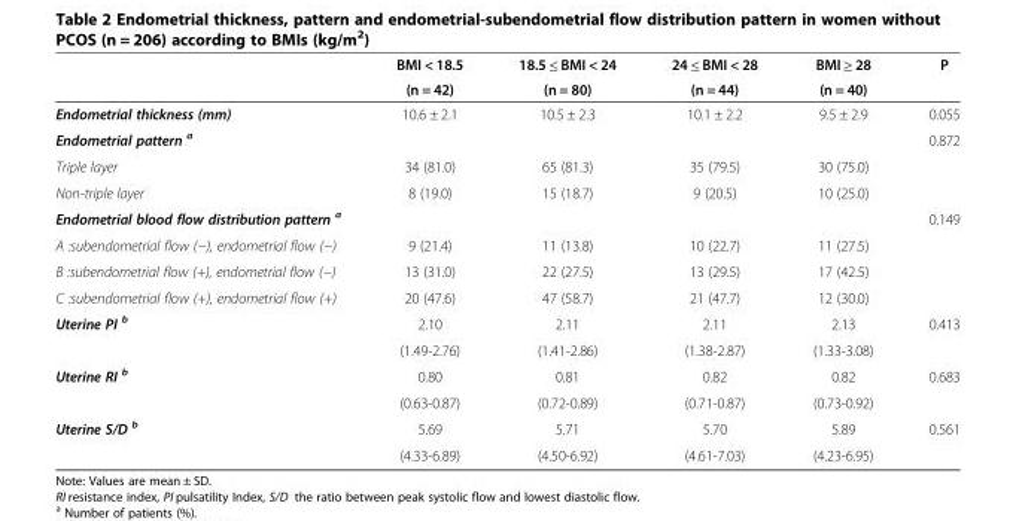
<table><thead><tr><td rowspan="2"></td><td rowspan="2">BMI &lt; 18.5 (n = 42)</td><td rowspan="2">18.5 ≤ BMI &lt; 24 (n = 80)</td><td rowspan="2">24 ≤ BMI &lt; 28 (n = 44)</td><td rowspan="2">BMI ≥ 28 (n = 40)</td><td rowspan="2">P</td></tr><tr></tr></thead><tbody><tr><td>Endometrial thickness (mm)</td><td>10.6 ± 2.1</td><td>10.5 ± 2.3</td><td>10.1 ± 2.2</td><td>9.5 ± 2.9</td><td>0.055</td></tr><tr><td>Endometrial pattern <sup>a</sup></td><td></td><td></td><td></td><td></td><td>0.872</td></tr><tr><td>Triple layer</td><td>34 (81.0)</td><td>65 (81.3)</td><td>35 (79.5)</td><td>30 (75.0)</td><td></td></tr><tr><td>Non-triple layer</td><td>8 (19.0)</td><td>15 (18.7)</td><td>9 (20.5)</td><td>10 (25.0)</td><td></td></tr><tr><td>Endometrial blood flow distribution pattern <sup>a</sup></td><td></td><td></td><td></td><td></td><td>0.149</td></tr><tr><td>A :subendometrial flow (−), endometrial flow (−)</td><td>9 (21.4)</td><td>11 (13.8)</td><td>10 (22.7)</td><td>11 (27.5)</td><td></td></tr><tr><td>B :subendometrial flow (+), endometrial flow (−)</td><td>13 (31.0)</td><td>22 (27.5)</td><td>13 (29.5)</td><td>17 (42.5)</td><td></td></tr><tr><td>C :subendometrial flow (+), endometrial flow (+)</td><td>20 (47.6)</td><td>47 (58.7)</td><td>21 (47.7)</td><td>12 (30.0)</td><td></td></tr><tr><td rowspan="2">Uterine PI <sup>b</sup></td><td>2.10</td><td>2.11</td><td>2.11</td><td>2.13</td><td rowspan="2">0.413</td></tr><tr><td>(1.49-2.76)</td><td>(1.41-2.86)</td><td>(1.38-2.87)</td><td>(1.33-3.08)</td></tr><tr><td rowspan="2">Uterine RI <sup>b</sup></td><td>0.80</td><td>0.81</td><td>0.82</td><td>0.82</td><td rowspan="2">0.683</td></tr><tr><td>(0.63-0.87)</td><td>(0.72-0.89)</td><td>(0.71-0.87)</td><td>(0.73-0.92)</td></tr><tr><td rowspan="2">Uterine S/D <sup>b</sup></td><td>5.69</td><td>5.71</td><td>5.70</td><td>5.89</td><td>0.561</td></tr><tr><td>(4.33-6.89)</td><td>(4.50-6.92)</td><td>(4.61-7.03)</td><td>(4.23-6.95)</td><td></td></tr></tbody></table>